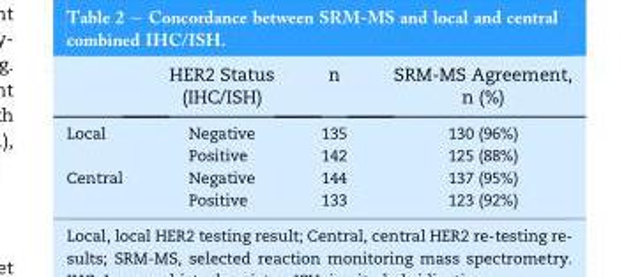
<table><thead><tr><td></td><td>HER2 Status (IHC/ISH)</td><td>n</td><td>SRM-MS Agreement, n (%)</td></tr></thead><tbody><tr><td rowspan="2">Local</td><td>Negative</td><td>135</td><td>130 (96%)</td></tr><tr><td>Positive</td><td>142</td><td>125 (88%)</td></tr><tr><td rowspan="2">Central</td><td>Negative</td><td>144</td><td>137 (95%)</td></tr><tr><td>Positive</td><td>133</td><td>123 (92%)</td></tr></tbody></table>